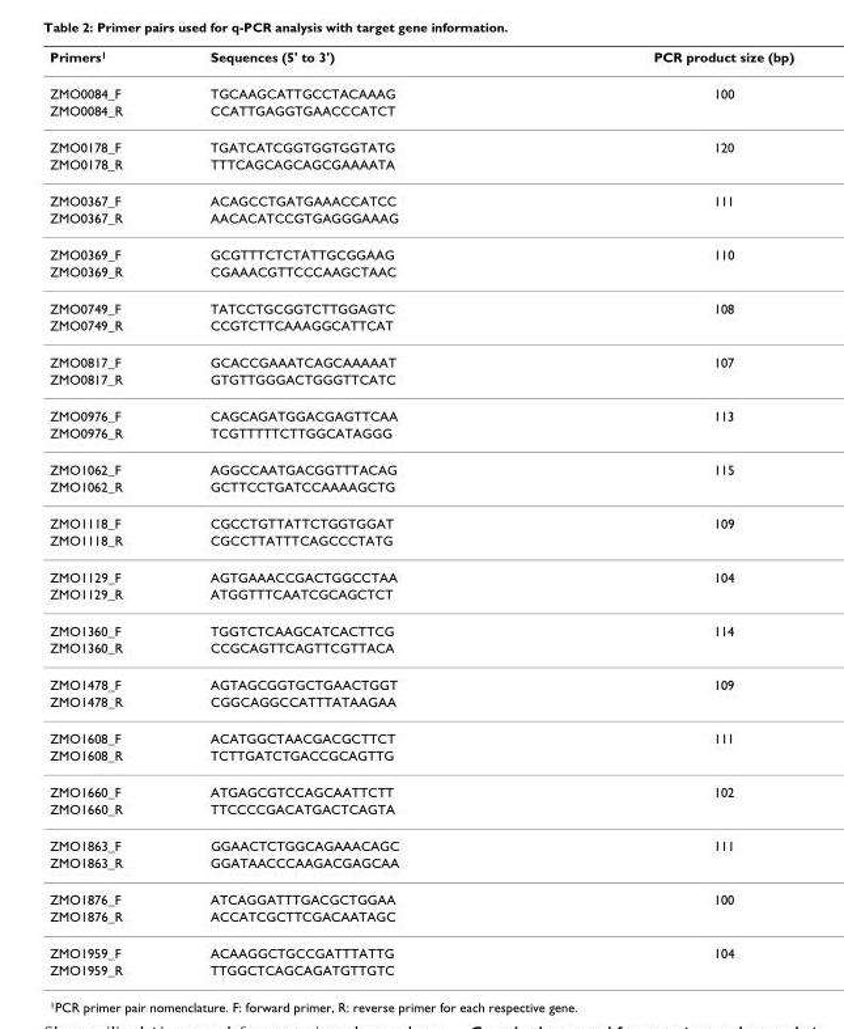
<table><thead><tr><td>Primers<sup>1</sup></td><td>Sequences (5&#x27; to 3&#x27;)</td><td>PCR product size (bp)</td></tr></thead><tbody><tr><td>ZMO0084_F</td><td>TGCAAGCATTGCCTACAAAG</td><td>100</td></tr><tr><td>ZMO0084_R</td><td>CCATTGAGGTGAACCCATCT</td><td></td></tr><tr><td>ZMO0178_F</td><td>TGATCATCGGTGGTGGTATG</td><td>120</td></tr><tr><td>ZMO0178_R</td><td>TTTCAGCAGCAGCGAAAATA</td><td></td></tr><tr><td>ZMO0367_F</td><td>ACAGCCTGATGAAACCATCC</td><td>111</td></tr><tr><td>ZMO0367_R</td><td>AACACATCCGTGAGGGAAAG</td><td></td></tr><tr><td>ZMO0369_F</td><td>GCGTTTCTCTATTGCGGAAG</td><td>110</td></tr><tr><td>ZMO0369_R</td><td>CGAAACGTTCCCAAGCTAAC</td><td></td></tr><tr><td>ZMO0749_F</td><td>TATCCTGCGGTCTTGGAGTC</td><td>108</td></tr><tr><td>ZMO0749_R</td><td>CCGTCTTCAAAGGCATTCAT</td><td></td></tr><tr><td>ZMO0817_F</td><td>GCACCGAAATCAGCAAAAAT</td><td>107</td></tr><tr><td>ZMO0817_R</td><td>GTGTTGGGACTGGGTTCATC</td><td></td></tr><tr><td>ZMO0976_F</td><td>CAGCAGATGGACGAGTTCAA</td><td>113</td></tr><tr><td>ZMO0976_R</td><td>TCGTTTTTCTTGGCATAGGG</td><td></td></tr><tr><td>ZMO1062_F</td><td>AGGCCAATGACGGTTTACAG</td><td>115</td></tr><tr><td>ZMO1062_R</td><td>GCTTCCTGATCCAAAAGCTG</td><td></td></tr><tr><td>ZMO1118_F</td><td>CGCCTGTTATTCTGGTGGAT</td><td>109</td></tr><tr><td>ZMO1118_R</td><td>CGCCTTATTTCAGCCCTATG</td><td></td></tr><tr><td>ZMO1129_F</td><td>AGTGAAACCGACTGGCCTAA</td><td>104</td></tr><tr><td>ZMO1129_R</td><td>ATGGTTTCAATCGCAGCTCT</td><td></td></tr><tr><td>ZMO1360_F</td><td>TGGTCTCAAGCATCACTTCG</td><td>114</td></tr><tr><td>ZMO1360_R</td><td>CCGCAGTTCAGTTCGTTACA</td><td></td></tr><tr><td>ZMO1478_F</td><td>AGTAGCGGTGCTGAACTGGT</td><td>109</td></tr><tr><td>ZMO1478_R</td><td>CGGCAGGCCATTTATAAGAA</td><td></td></tr><tr><td>ZMO1608_F</td><td>ACATGGCTAACGACGCTTCT</td><td>111</td></tr><tr><td>ZMO1608_R</td><td>TCTTGATCTGACCGCAGTTG</td><td></td></tr><tr><td>ZMO1660_F</td><td>ATGAGCGTCCAGCAATTCTT</td><td>102</td></tr><tr><td>ZMO1660_R</td><td>TTCCCCGACATGACTCAGTA</td><td></td></tr><tr><td>ZMO1863_F</td><td>GGAACTCTGGCAGAAACAGC</td><td>111</td></tr><tr><td>ZMO1863_R</td><td>GGATAACCCAAGACGAGCAA</td><td></td></tr><tr><td>ZMO1876_F</td><td>ATCAGGATTTGACGCTGGAA</td><td>100</td></tr><tr><td>ZMO1876_R</td><td>ACCATCGCTTCGACAATAGC</td><td></td></tr><tr><td>ZMO1959_F</td><td>ACAAGGCTGCCGATTTATTG</td><td>104</td></tr><tr><td>ZMO1959_R</td><td>TTGGCTCAGCAGATGTTGTC</td><td></td></tr></tbody></table>